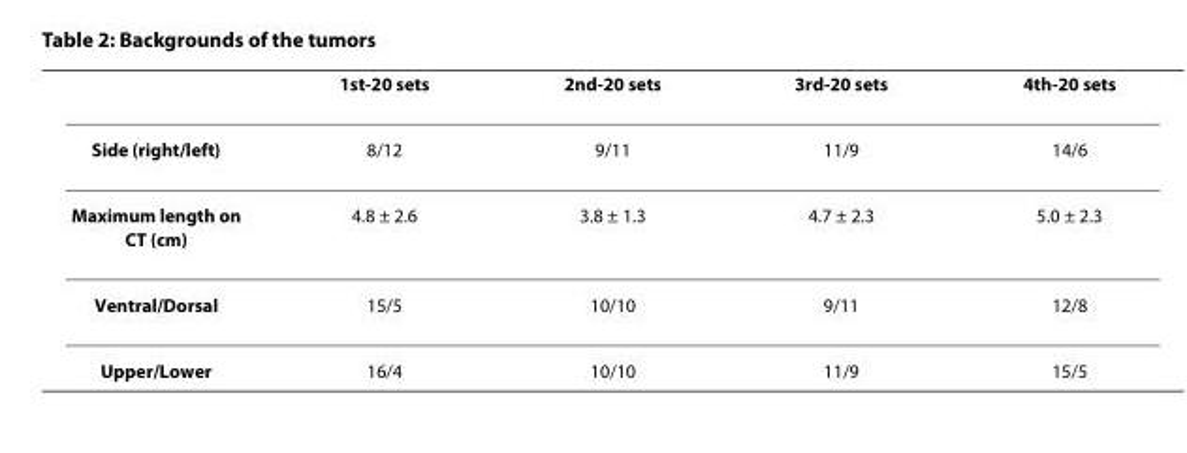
<table><thead><tr><td></td><td>1st-20 sets</td><td>2nd-20 sets</td><td>3rd-20 sets</td><td>4th-20 sets</td></tr></thead><tbody><tr><td>Side (right/left)</td><td>8/12</td><td>9/11</td><td>11/9</td><td>14/6</td></tr><tr><td>Maximum length on CT (cm)</td><td>4.8 ± 2.6</td><td>3.8 ± 1.3</td><td>4.7 ± 2.3</td><td>5.0 ± 2.3</td></tr><tr><td>Ventral/Dorsal</td><td>15/5</td><td>10/10</td><td>9/11</td><td>12/8</td></tr><tr><td>Upper/Lower</td><td>16/4</td><td>10/10</td><td>11/9</td><td>15/5</td></tr></tbody></table>